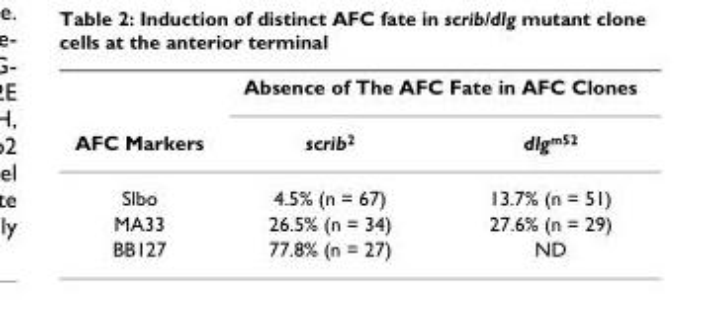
<table><thead><tr><td rowspan="2">AFC Markers</td><td colspan="2">Absence of The AFC Fate in AFC Clones</td></tr><tr><td>scrib<sup>2</sup></td><td>dlg<sup>m52</sup></td></tr></thead><tbody><tr><td>Slbo</td><td>4.5% (n = 67)</td><td>13.7% (n = 51)</td></tr><tr><td>MA33</td><td>26.5% (n = 34)</td><td>27.6% (n = 29)</td></tr><tr><td>BB127</td><td>77.8% (n = 27)</td><td>ND</td></tr></tbody></table>